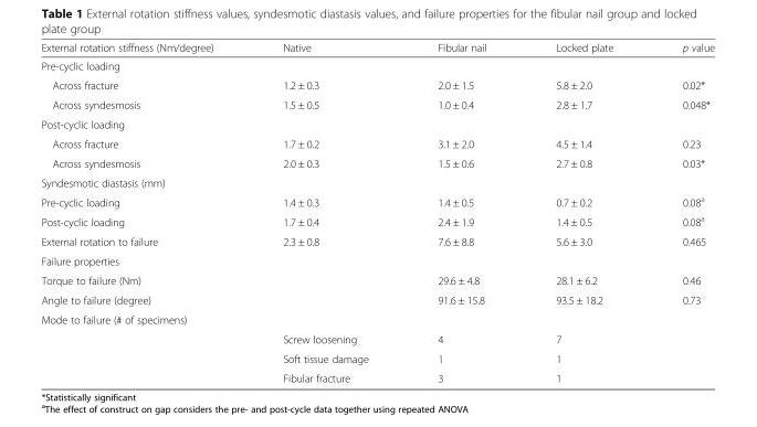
<table><thead><tr><td>External rotation stiffness (Nm/degree)</td><td>Native</td><td>Fibular nail</td><td>Locked plate</td><td>p value</td></tr></thead><tbody><tr><td colspan="5">Pre-cyclic loading</td></tr><tr><td>Across fracture</td><td>1.2 ± 0.3</td><td>2.0 ± 1.5</td><td>5.8 ± 2.0</td><td>0.02*</td></tr><tr><td>Across syndesmosis</td><td>1.5 ± 0.5</td><td>1.0 ± 0.4</td><td>2.8 ± 1.7</td><td>0.048*</td></tr><tr><td colspan="5">Post-cyclic loading</td></tr><tr><td>Across fracture</td><td>1.7 ± 0.2</td><td>3.1 ± 2.0</td><td>4.5 ± 1.4</td><td>0.23</td></tr><tr><td>Across syndesmosis</td><td rowspan="2">2.0 ± 0.3</td><td rowspan="2">1.5 ± 0.6</td><td rowspan="2">2.7 ± 0.8</td><td rowspan="2">0.03*</td></tr><tr><td>Syndesmotic diastasis (mm)</td></tr><tr><td>Pre-cyclic loading</td><td>1.4 ± 0.3</td><td>1.4 ± 0.5</td><td>0.7 ± 0.2</td><td>0.08<sup>a</sup></td></tr><tr><td>Post-cyclic loading</td><td>1.7 ± 0.4</td><td>2.4 ± 1.9</td><td>1.4 ± 0.5</td><td>0.08<sup>a</sup></td></tr><tr><td>External rotation to failure</td><td rowspan="2">2.3 ± 0.8</td><td rowspan="2">7.6 ± 8.8</td><td rowspan="2">5.6 ± 3.0</td><td rowspan="2">0.465</td></tr><tr><td>Failure properties</td></tr><tr><td>Torque to failure (Nm)</td><td></td><td>29.6 ± 4.8</td><td>28.1 ± 6.2</td><td>0.46</td></tr><tr><td>Angle to failure (degree)</td><td></td><td>91.6 ± 15.8</td><td>93.5 ± 18.2</td><td>0.73</td></tr><tr><td colspan="5">Mode to failure (# of specimens)</td></tr><tr><td></td><td>Screw loosening</td><td>4</td><td>7</td><td></td></tr><tr><td></td><td>Soft tissue damage</td><td>1</td><td>1</td><td></td></tr><tr><td></td><td>Fibular fracture</td><td>3</td><td>1</td><td></td></tr></tbody></table>